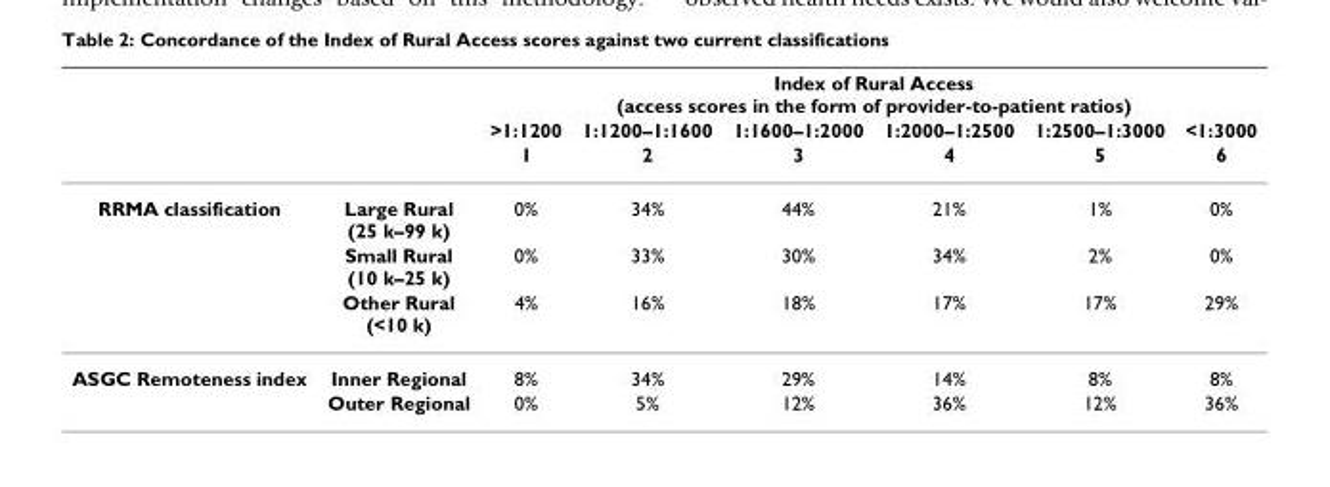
<table><thead><tr><td rowspan="3"></td><td rowspan="3"></td><td colspan="6">Index of Rural Access (access scores in the form of provider-to-patient ratios)</td></tr><tr><td rowspan="2">&gt;1:1200 1</td><td rowspan="2">1:1200–1:1600 2</td><td rowspan="2">1:1600–1:2000 3</td><td rowspan="2">1:2000–1:2500 4</td><td rowspan="2">1:2500–1:3000 5</td><td rowspan="2">&lt;1:3000 6</td></tr><tr></tr></thead><tbody><tr><td rowspan="3">RRMA classification</td><td>Large Rural (25 k–99 k)</td><td>0%</td><td>34%</td><td>44%</td><td>21%</td><td>1%</td><td>0%</td></tr><tr><td>Small Rural (10 k–25 k)</td><td>0%</td><td>33%</td><td>30%</td><td>34%</td><td>2%</td><td>0%</td></tr><tr><td>Other Rural (&lt;10 k)</td><td>4%</td><td>16%</td><td>18%</td><td>17%</td><td>17%</td><td>29%</td></tr><tr><td rowspan="2">ASGC Remoteness index</td><td>Inner Regional</td><td>8%</td><td>34%</td><td>29%</td><td>14%</td><td>8%</td><td>8%</td></tr><tr><td>Outer Regional</td><td>0%</td><td>5%</td><td>12%</td><td>36%</td><td>12%</td><td>36%</td></tr></tbody></table>